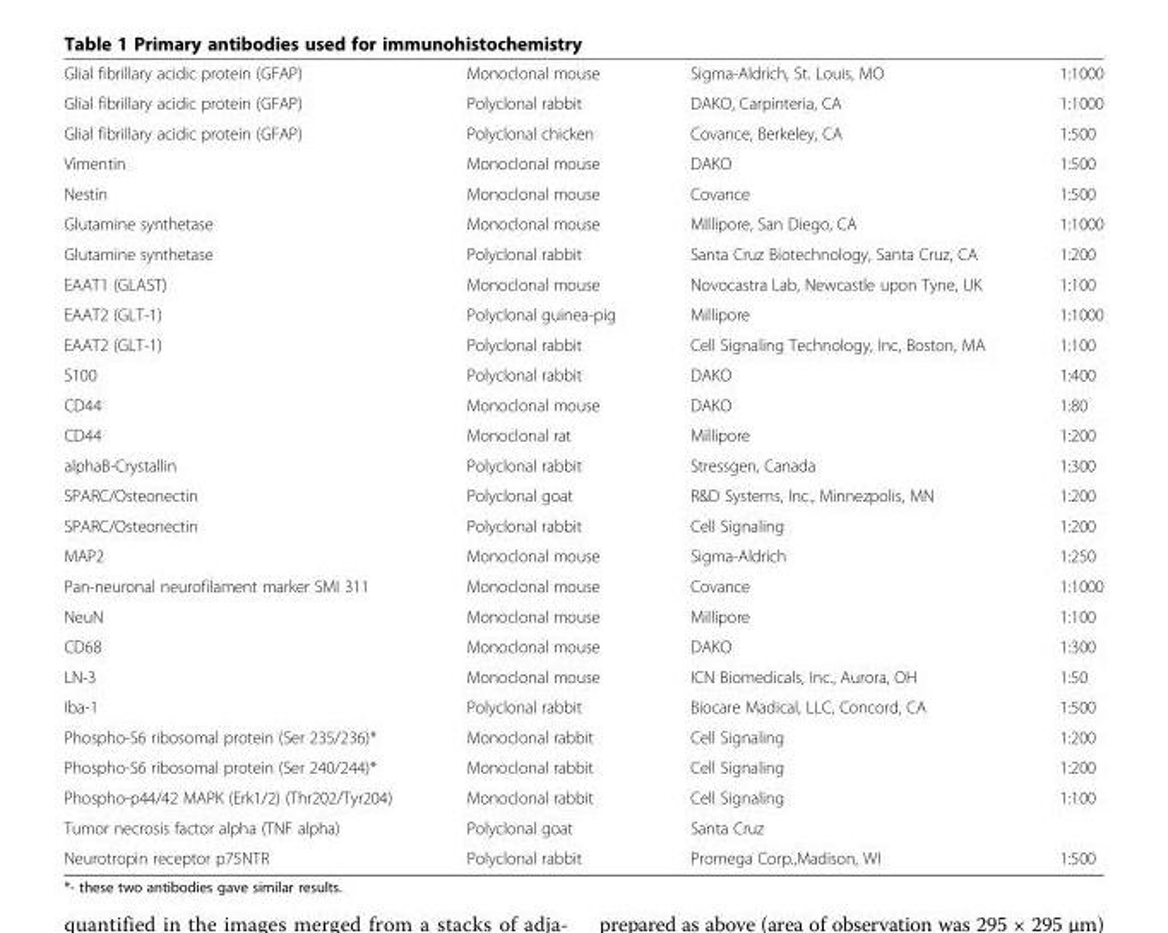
<table><tbody><tr><td>Glial fibrillary acidic protein (GFAP)</td><td>Monoclonal mouse</td><td>Sigma-Aldrich, St. Louis, MO</td><td>1:1000</td></tr><tr><td>Glial fibrillary acidic protein (GFAP)</td><td>Polyclonal rabbit</td><td>DAKO, Carpinteria, CA</td><td>1:1000</td></tr><tr><td>Glial fibrillary acidic protein (GFAP)</td><td>Polyclonal chicken</td><td>Covance, Berkeley, CA</td><td>1:500</td></tr><tr><td>Vimentin</td><td>Monoclonal mouse</td><td>DAKO</td><td>1:500</td></tr><tr><td>Nestin</td><td>Monoclonal mouse</td><td>Covance</td><td>1:500</td></tr><tr><td>Glutamine synthetase</td><td>Monoclonal mouse</td><td>MIllipore, San Diego, CA</td><td>1:1000</td></tr><tr><td>Glutamine synthetase</td><td>Polyclonal rabbit</td><td>Santa Cruz Biotechnology, Santa Cruz, CA</td><td>1:200</td></tr><tr><td>EAAT1 (GLAST)</td><td>Monoclonal mouse</td><td>Novocastra Lab, Newcastle upon Tyne, UK</td><td>1:100</td></tr><tr><td>EAAT2 (GLT-1)</td><td>Polyclonal guinea-pig</td><td>Millipore</td><td>1:1000</td></tr><tr><td>EAAT2 (GLT-1)</td><td>Polyclonal rabbit</td><td>Cell Signaling Technology, Inc, Boston, MA</td><td>1:100</td></tr><tr><td>S100</td><td>Polyclonal rabbit</td><td>DAKO</td><td>1:400</td></tr><tr><td>CD44</td><td>Monoclonal mouse</td><td>DAKO</td><td>1:80</td></tr><tr><td>CD44</td><td>Monoclonal rat</td><td>Millipore</td><td>1:200</td></tr><tr><td>alphaB-Crystallin</td><td>Polyclonal rabbit</td><td>Stressgen, Canada</td><td>1:300</td></tr><tr><td>SPARC/Osteonectin</td><td>Polyclonal goat</td><td>R&amp;D Systems, Inc., Minnezpolis, MN</td><td>1:200</td></tr><tr><td>SPARC/Osteonectin</td><td>Polyclonal rabbit</td><td>Cell Signaling</td><td>1:200</td></tr><tr><td>MAP2</td><td>Monoclonal mouse</td><td>Sigma-Aldrich</td><td>1:250</td></tr><tr><td>Pan-neuronal neurofilament marker SMI 311</td><td>Monoclonal mouse</td><td>Covance</td><td>1:1000</td></tr><tr><td>NeuN</td><td>Monoclonal mouse</td><td>Millipore</td><td>1:100</td></tr><tr><td>CD68</td><td>Monoclonal mouse</td><td>DAKO</td><td>1:300</td></tr><tr><td>LN-3</td><td>Monoclonal mouse</td><td>ICN Biomedicals, Inc., Aurora, OH</td><td>1:50</td></tr><tr><td>Iba-1</td><td>Polyclonal rabbit</td><td>Biocare Madical, LLC, Concord, CA</td><td>1:500</td></tr><tr><td>Phospho-S6 ribosomal protein (Ser 235/236)*</td><td>Monoclonal rabbit</td><td>Cell Signaling</td><td>1:200</td></tr><tr><td>Phospho-S6 ribosomal protein (Ser 240/244)*</td><td>Monoclonal rabbit</td><td>Cell Signaling</td><td>1:200</td></tr><tr><td>Phospho-p44/42 MAPK (Erk1/2) (Thr202/Tyr204)</td><td>Monoclonal rabbit</td><td>Cell Signaling</td><td>1:100</td></tr><tr><td>Tumor necrosis factor alpha (TNF alpha)</td><td>Polyclonal goat</td><td>Santa Cruz</td><td></td></tr><tr><td>Neurotropin receptor p75NTR</td><td>Polyclonal rabbit</td><td>Promega Corp.,Madison, WI</td><td>1:500</td></tr></tbody></table>